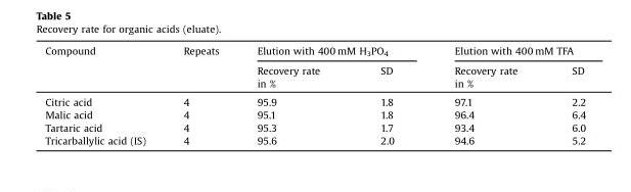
<table><thead><tr><td rowspan="2">Compound</td><td rowspan="2">Repeats</td><td colspan="2">Elution with 400 mM H<sub>3</sub>PO<sub>4</sub></td><td colspan="2">Elution with 400 mM TFA</td></tr><tr><td>Recovery rate in %</td><td>SD</td><td>Recovery rate in %</td><td>SD</td></tr></thead><tbody><tr><td>Citric acid</td><td>4</td><td>95.9</td><td>1.8</td><td>97.1</td><td>2.2</td></tr><tr><td>Malic acid</td><td>4</td><td>95.1</td><td>1.8</td><td>96.4</td><td>6.4</td></tr><tr><td>Tartaric acid</td><td>4</td><td>95.3</td><td>1.7</td><td>93.4</td><td>6.0</td></tr><tr><td>Tricarballylic acid (IS)</td><td>4</td><td>95.6</td><td>2.0</td><td>94.6</td><td>5.2</td></tr></tbody></table>